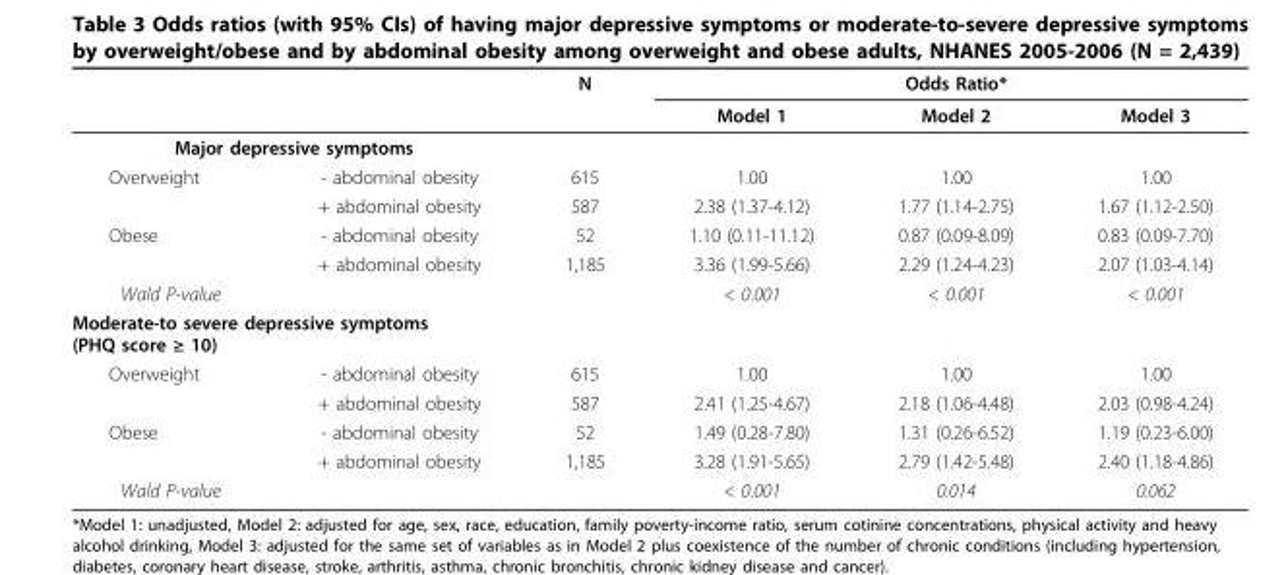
<table><thead><tr><td rowspan="2"></td><td rowspan="2"></td><td rowspan="2">N</td><td rowspan="2">Model 1</td><td rowspan="2">Odds Ratio* Model 2</td><td rowspan="2">Model 3</td></tr><tr></tr></thead><tbody><tr><td colspan="6">Major depressive symptoms</td></tr><tr><td rowspan="2">Overweight</td><td>- abdominal obesity</td><td>615</td><td>1.00</td><td>1.00</td><td>1.00</td></tr><tr><td>+ abdominal obesity</td><td>587</td><td>2.38 (1.37-4.12)</td><td>1.77 (1.14-2.75)</td><td>1.67 (1.12-2.50)</td></tr><tr><td rowspan="2">Obese</td><td>- abdominal obesity</td><td>52</td><td>1.10 (0.11-11.12)</td><td>0.87 (0.09-8.09)</td><td>0.83 (0.09-7.70)</td></tr><tr><td>+ abdominal obesity</td><td>1,185</td><td>3.36 (1.99-5.66)</td><td>2.29 (1.24-4.23)</td><td>2.07 (1.03-4.14)</td></tr><tr><td>Wald P-value</td><td></td><td></td><td>&lt; 0.001</td><td>&lt; 0.001</td><td>&lt; 0.001</td></tr><tr><td colspan="6">Moderate-to severe depressive symptoms (PHQ score ≥ 10)</td></tr><tr><td rowspan="2">Overweight</td><td>- abdominal obesity</td><td>615</td><td>1.00</td><td>1.00</td><td>1.00</td></tr><tr><td>+ abdominal obesity</td><td>587</td><td>2.41 (1.25-4.67)</td><td>2.18 (1.06-4.48)</td><td>2.03 (0.98-4.24)</td></tr><tr><td rowspan="2">Obese</td><td>- abdominal obesity</td><td>52</td><td>1.49 (0.28-7.80)</td><td>1.31 (0.26-6.52)</td><td>1.19 (0.23-6.00)</td></tr><tr><td>+ abdominal obesity</td><td>1,185</td><td>3.28 (1.91-5.65)</td><td>2.79 (1.42-5.48)</td><td>2.40 (1.18-4.86)</td></tr><tr><td>Wald P-value</td><td></td><td></td><td>&lt; 0.001</td><td>0.014</td><td>0.062</td></tr></tbody></table>